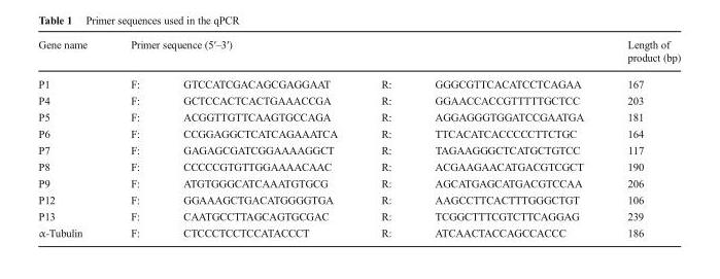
<table><thead><tr><td rowspan="2">Gene name P1</td><td colspan="4">Primer sequence (5′–3′)</td><td rowspan="2">Length of product (bp) 167</td></tr><tr><td>F:</td><td>GTCCATCGACAGCGAGGAAT</td><td>R:</td><td>GGGCGTTCACATCCTCAGAA</td></tr></thead><tbody><tr><td>P4</td><td>F:</td><td>GCTCCACTCACTGAAACCGA</td><td>R:</td><td>GGAACCACCGTTTTTGCTCC</td><td>203</td></tr><tr><td>P5</td><td>F:</td><td>ACGGTTGTTCAAGTGCCAGA</td><td>R:</td><td>AGGAGGGTGGATCCGAATGA</td><td>181</td></tr><tr><td>P6</td><td>F:</td><td>CCGGAGGCTCATCAGAAATCA</td><td>R:</td><td>TTCACATCACCCCCTTCTGC</td><td>164</td></tr><tr><td>P7</td><td>F:</td><td>GAGAGCGATCGGAAAAGGCT</td><td>R:</td><td>TAGAAGGGCTCATGCTGTCC</td><td>117</td></tr><tr><td>P8</td><td>F:</td><td>CCCCCGTGTTGGAAAACAAC</td><td>R:</td><td>ACGAAGAACATGACGTCGCT</td><td>190</td></tr><tr><td>P9</td><td>F:</td><td>ATGTGGGCATCAAATGTGCG</td><td>R:</td><td>AGCATGAGCATGACGTCCAA</td><td>206</td></tr><tr><td>P12</td><td>F:</td><td>GGAAAGCTGACATGGGGTGA</td><td>R:</td><td>AAGCCTTCACTTTGGGCTGT</td><td>106</td></tr><tr><td>P13</td><td>F:</td><td>CAATGCCTTAGCAGTGCGAC</td><td>R:</td><td>TCGGCTTTCGTCTTCAGGAG</td><td>239</td></tr><tr><td>α-Tubulin</td><td>F:</td><td>CTCCCTCCTCCATACCCT</td><td>R:</td><td>ATCAACTACCAGCCACCC</td><td>186</td></tr></tbody></table>